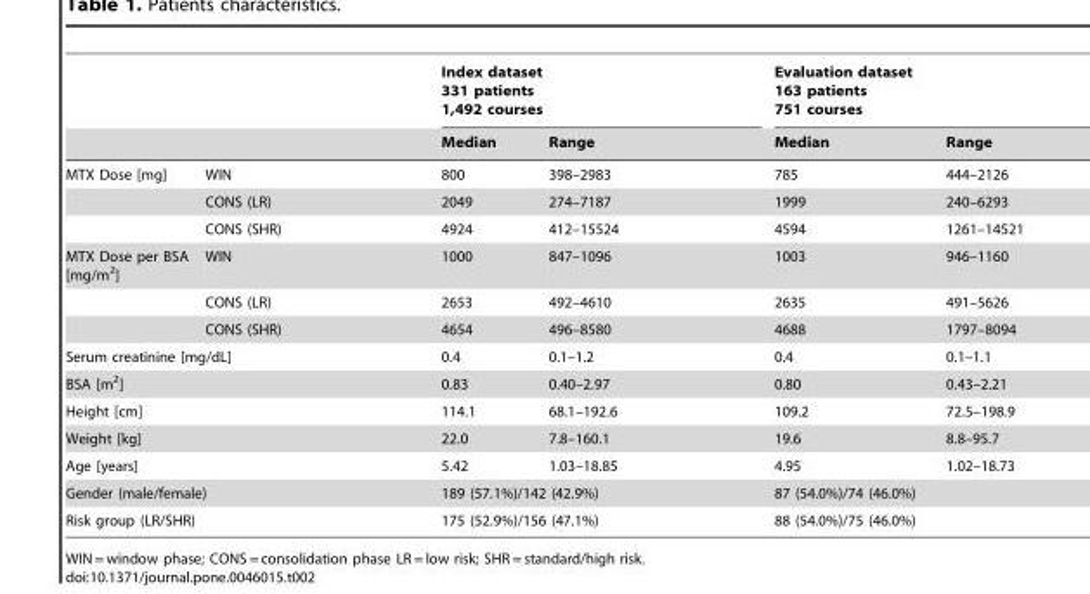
<table><thead><tr><td rowspan="2"></td><td rowspan="2"></td><td colspan="2">Index dataset 331 patients 1,492 courses</td><td colspan="2">Evaluation dataset 163 patients 751 courses</td></tr><tr><td>Median</td><td>Range</td><td>Median</td><td>Range</td></tr></thead><tbody><tr><td rowspan="3">MTX Dose [mg]</td><td>WIN</td><td>800</td><td>398–2983</td><td>785</td><td>444–2126</td></tr><tr><td>CONS (LR)</td><td>2049</td><td>274–7187</td><td>1999</td><td>240–6293</td></tr><tr><td>CONS (SHR)</td><td>4924</td><td>412–15524</td><td>4594</td><td>1261–14521</td></tr><tr><td rowspan="3">MTX Dose per BSA [mg/m<sup>2</sup>]</td><td>WIN</td><td>1000</td><td>847–1096</td><td>1003</td><td>946–1160</td></tr><tr><td>CONS (LR)</td><td>2653</td><td>492–4610</td><td>2635</td><td>491–5626</td></tr><tr><td>CONS (SHR)</td><td>4654</td><td>496–8580</td><td>4688</td><td>1797–8094</td></tr><tr><td colspan="2">Serum creatinine [mg/dL]</td><td>0.4</td><td>0.1–1.2</td><td>0.4</td><td>0.1–1.1</td></tr><tr><td colspan="2">BSA [m<sup>2</sup>]</td><td>0.83</td><td>0.40–2.97</td><td>0.80</td><td>0.43–2.21</td></tr><tr><td colspan="2">Height [cm]</td><td>114.1</td><td>68.1–192.6</td><td>109.2</td><td>72.5–198.9</td></tr><tr><td colspan="2">Weight [kg]</td><td>22.0</td><td>7.8–160.1</td><td>19.6</td><td>8.8–95.7</td></tr><tr><td colspan="2">Age [years]</td><td>5.42</td><td>1.03–18.85</td><td>4.95</td><td>1.02–18.73</td></tr><tr><td colspan="2">Gender (male/female)</td><td colspan="2">189 (57.1%)/142 (42.9%)</td><td colspan="2">87 (54.0%)/74 (46.0%)</td></tr><tr><td colspan="2">Risk group (LR/SHR)</td><td colspan="2">175 (52.9%)/156 (47.1%)</td><td colspan="2">88 (54.0%)/75 (46.0%)</td></tr></tbody></table>